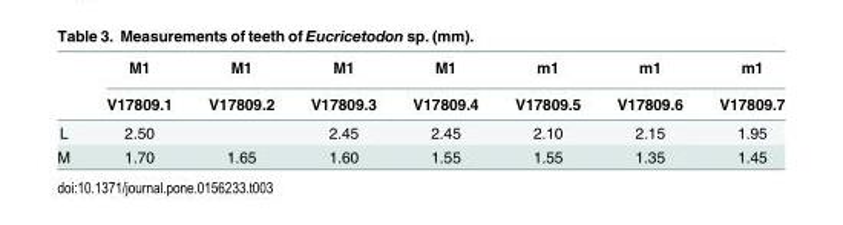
<table><thead><tr><td rowspan="2"></td><td rowspan="2">M1 V17809.1</td><td rowspan="2">M1 V17809.2</td><td rowspan="2">M1 V17809.3</td><td rowspan="2">M1 V17809.4</td><td rowspan="2">m1 V17809.5</td><td rowspan="2">m1 V17809.6</td><td rowspan="2">m1 V17809.7</td></tr><tr></tr></thead><tbody><tr><td>L</td><td>2.50</td><td></td><td>2.45</td><td>2.45</td><td>2.10</td><td>2.15</td><td>1.95</td></tr><tr><td>M</td><td>1.70</td><td>1.65</td><td>1.60</td><td>1.55</td><td>1.55</td><td>1.35</td><td>1.45</td></tr></tbody></table>